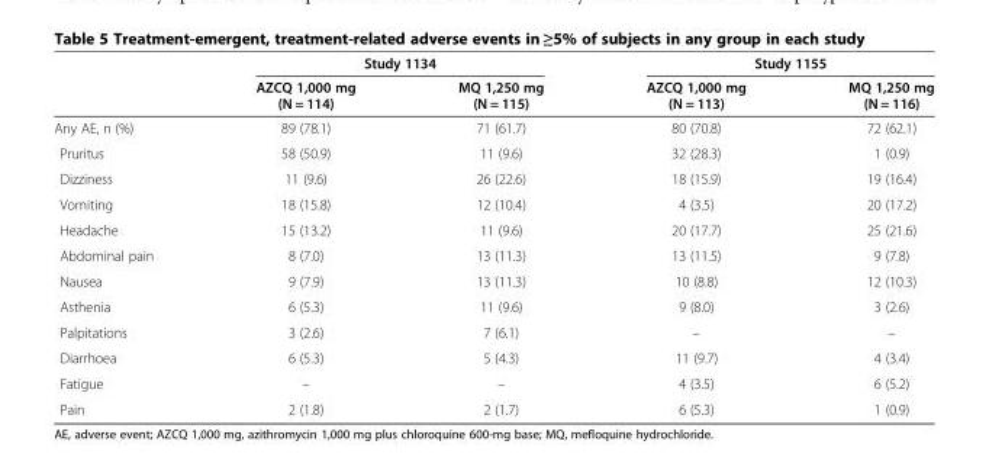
<table><thead><tr><td rowspan="2"></td><td colspan="2">Study 1134</td><td colspan="2">Study 1155</td></tr><tr><td>AZCQ 1,000 mg (N = 114)</td><td>MQ 1,250 mg (N = 115)</td><td>AZCQ 1,000 mg (N = 113)</td><td>MQ 1,250 mg (N = 116)</td></tr></thead><tbody><tr><td>Any AE, n (%)</td><td>89 (78.1)</td><td>71 (61.7)</td><td>80 (70.8)</td><td>72 (62.1)</td></tr><tr><td>Pruritus</td><td>58 (50.9)</td><td>11 (9.6)</td><td>32 (28.3)</td><td>1 (0.9)</td></tr><tr><td>Dizziness</td><td>11 (9.6)</td><td>26 (22.6)</td><td>18 (15.9)</td><td>19 (16.4)</td></tr><tr><td>Vomiting</td><td>18 (15.8)</td><td>12 (10.4)</td><td>4 (3.5)</td><td>20 (17.2)</td></tr><tr><td>Headache</td><td>15 (13.2)</td><td>11 (9.6)</td><td>20 (17.7)</td><td>25 (21.6)</td></tr><tr><td>Abdominal pain</td><td>8 (7.0)</td><td>13 (11.3)</td><td>13 (11.5)</td><td>9 (7.8)</td></tr><tr><td>Nausea</td><td>9 (7.9)</td><td>13 (11.3)</td><td>10 (8.8)</td><td>12 (10.3)</td></tr><tr><td>Asthenia</td><td>6 (5.3)</td><td>11 (9.6)</td><td>9 (8.0)</td><td>3 (2.6)</td></tr><tr><td>Palpitations</td><td>3 (2.6)</td><td>7 (6.1)</td><td>–</td><td>–</td></tr><tr><td>Diarrhoea</td><td>6 (5.3)</td><td>5 (4.3)</td><td>11 (9.7)</td><td>4 (3.4)</td></tr><tr><td>Fatigue</td><td>–</td><td>–</td><td>4 (3.5)</td><td>6 (5.2)</td></tr><tr><td>Pain</td><td>2 (1.8)</td><td>2 (1.7)</td><td>6 (5.3)</td><td>1 (0.9)</td></tr></tbody></table>